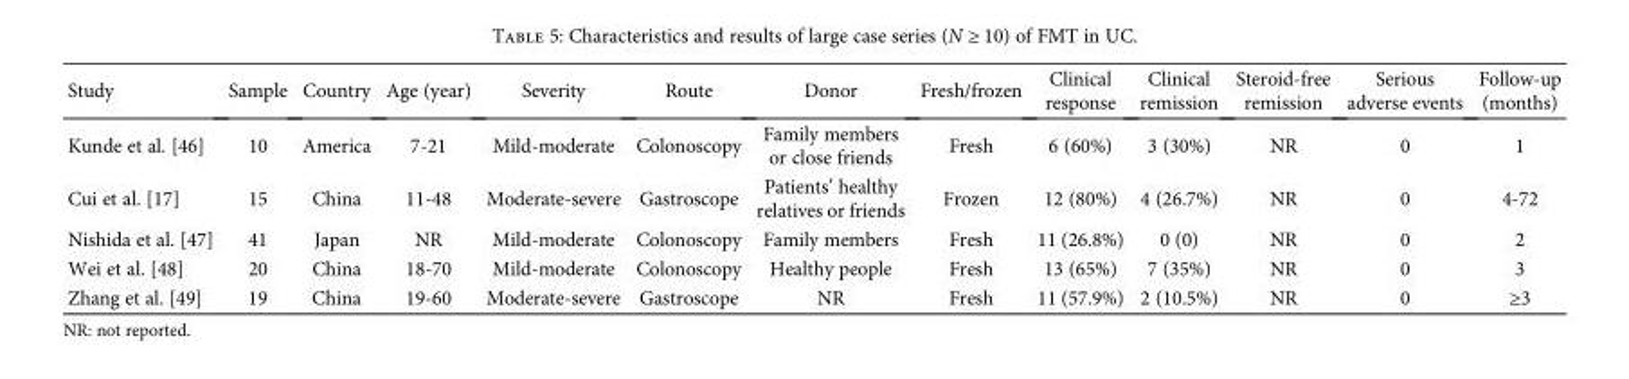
<table><thead><tr><td>Study</td><td>Sample</td><td>Country</td><td>Age (year)</td><td>Severity</td><td>Route</td><td>Donor</td><td>Fresh/frozen</td><td>Clinical response</td><td>Clinical remission</td><td>Steroid-free remission</td><td>Serious adverse events</td><td>Follow-up (months)</td></tr></thead><tbody><tr><td>Kunde et al. [46]</td><td>10</td><td>America</td><td>7-21</td><td>Mild-moderate</td><td>Colonoscopy</td><td>Family members or close friends</td><td>Fresh</td><td>6 (60%)</td><td>3 (30%)</td><td>NR</td><td>0</td><td>1</td></tr><tr><td>Cui et al. [17]</td><td>15</td><td>China</td><td>11-48</td><td>Moderate-severe</td><td>Gastroscope</td><td>Patients’ healthy relatives or friends</td><td>Frozen</td><td>12 (80%)</td><td>4 (26.7%)</td><td>NR</td><td>0</td><td>4-72</td></tr><tr><td>Nishida et al. [47]</td><td>41</td><td>Japan</td><td>NR</td><td>Mild-moderate</td><td>Colonoscopy</td><td>Family members</td><td>Fresh</td><td>11 (26.8%)</td><td>0 (0)</td><td>NR</td><td>0</td><td>2</td></tr><tr><td>Wei et al. [48]</td><td>20</td><td>China</td><td>18-70</td><td>Mild-moderate</td><td>Colonoscopy</td><td>Healthy people</td><td>Fresh</td><td>13 (65%)</td><td>7 (35%)</td><td>NR</td><td>0</td><td>3</td></tr><tr><td>Zhang et al. [49]</td><td>19</td><td>China</td><td>19-60</td><td>Moderate-severe</td><td>Gastroscope</td><td>NR</td><td>Fresh</td><td>11 (57.9%)</td><td>2 (10.5%)</td><td>NR</td><td>0</td><td>≥3</td></tr></tbody></table>